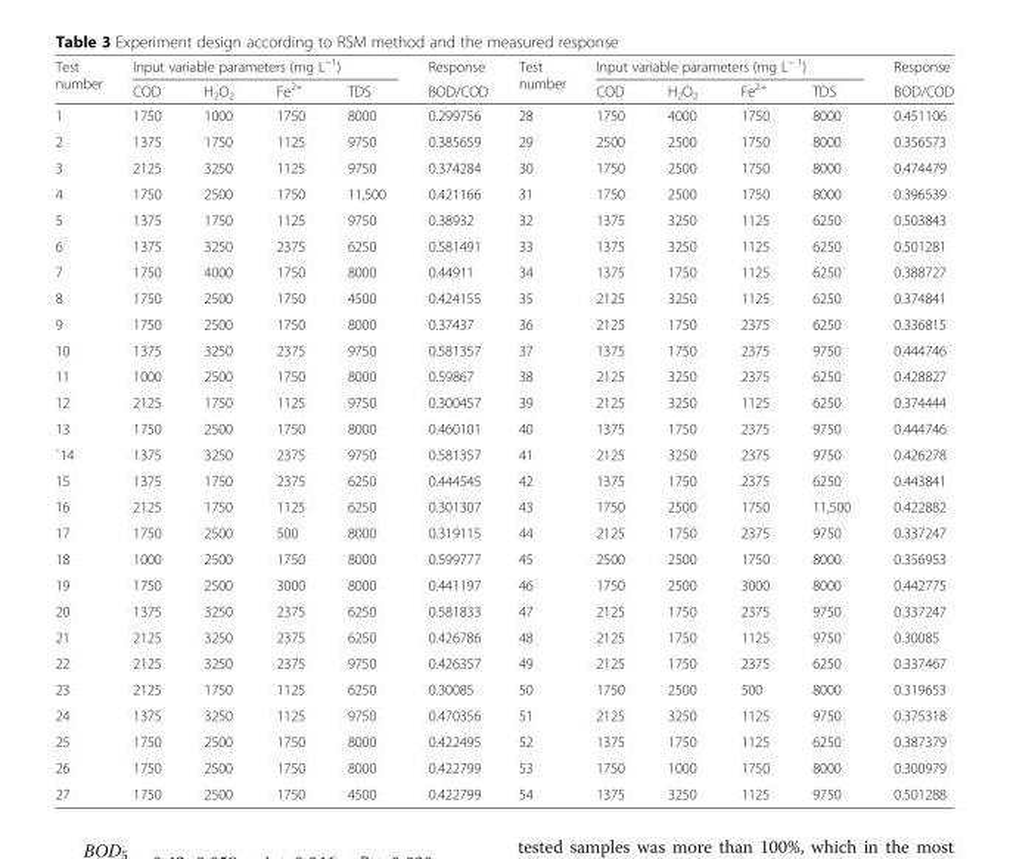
<table><thead><tr><td rowspan="2">Test number</td><td colspan="4">Input variable parameters (mg L<sup>−1</sup>)</td><td rowspan="2">Response BOD/COD</td><td rowspan="2">Test number</td><td colspan="4">Input variable parameters (mg L<sup>− 1</sup>)</td><td rowspan="2">Response BOD/COD</td></tr><tr><td>COD</td><td>H<sub>2</sub>O<sub>2</sub></td><td>Fe<sup>2+</sup></td><td>TDS</td><td>COD</td><td>H<sub>2</sub>O<sub>2</sub></td><td>Fe<sup>2+</sup></td><td>TDS</td></tr></thead><tbody><tr><td>1</td><td>1750</td><td>1000</td><td>1750</td><td>8000</td><td>0.299756</td><td>28</td><td>1750</td><td>4000</td><td>1750</td><td>8000</td><td>0.451106</td></tr><tr><td>2</td><td>1375</td><td>1750</td><td>1125</td><td>9750</td><td>0.385659</td><td>29</td><td>2500</td><td>2500</td><td>1750</td><td>8000</td><td>0.356573</td></tr><tr><td>3</td><td>2125</td><td>3250</td><td>1125</td><td>9750</td><td>0.374284</td><td>30</td><td>1750</td><td>2500</td><td>1750</td><td>8000</td><td>0.474479</td></tr><tr><td>4</td><td>1750</td><td>2500</td><td>1750</td><td>11,500</td><td>0.421166</td><td>31</td><td>1750</td><td>2500</td><td>1750</td><td>8000</td><td>0.396539</td></tr><tr><td>5</td><td>1375</td><td>1750</td><td>1125</td><td>9750</td><td>0.38932</td><td>32</td><td>1375</td><td>3250</td><td>1125</td><td>6250</td><td>0.503843</td></tr><tr><td>6</td><td>1375</td><td>3250</td><td>2375</td><td>6250</td><td>0.581491</td><td>33</td><td>1375</td><td>3250</td><td>1125</td><td>6250</td><td>0.501281</td></tr><tr><td>7</td><td>1750</td><td>4000</td><td>1750</td><td>8000</td><td>0.44911</td><td>34</td><td>1375</td><td>1750</td><td>1125</td><td>6250</td><td>0.388727</td></tr><tr><td>8</td><td>1750</td><td>2500</td><td>1750</td><td>4500</td><td>0.424155</td><td>35</td><td>2125</td><td>3250</td><td>1125</td><td>6250</td><td>0.374841</td></tr><tr><td>9</td><td>1750</td><td>2500</td><td>1750</td><td>8000</td><td>0.37437</td><td>36</td><td>2125</td><td>1750</td><td>2375</td><td>6250</td><td>0.336815</td></tr><tr><td>10</td><td>1375</td><td>3250</td><td>2375</td><td>9750</td><td>0.581357</td><td>37</td><td>1375</td><td>1750</td><td>2375</td><td>9750</td><td>0.444746</td></tr><tr><td>11</td><td>1000</td><td>2500</td><td>1750</td><td>8000</td><td>0.59867</td><td>38</td><td>2125</td><td>3250</td><td>2375</td><td>6250</td><td>0.428827</td></tr><tr><td>12</td><td>2125</td><td>1750</td><td>1125</td><td>9750</td><td>0.300457</td><td>39</td><td>2125</td><td>3250</td><td>1125</td><td>6250</td><td>0.374444</td></tr><tr><td>13</td><td>1750</td><td>2500</td><td>1750</td><td>8000</td><td>0.460101</td><td>40</td><td>1375</td><td>1750</td><td>2375</td><td>9750</td><td>0.444746</td></tr><tr><td>`14</td><td>1375</td><td>3250</td><td>2375</td><td>9750</td><td>0.581357</td><td>41</td><td>2125</td><td>3250</td><td>2375</td><td>9750</td><td>0.426278</td></tr><tr><td>15</td><td>1375</td><td>1750</td><td>2375</td><td>6250</td><td>0.444545</td><td>42</td><td>1375</td><td>1750</td><td>2375</td><td>6250</td><td>0.443841</td></tr><tr><td>16</td><td>2125</td><td>1750</td><td>1125</td><td>6250</td><td>0.301307</td><td>43</td><td>1750</td><td>2500</td><td>1750</td><td>11,500</td><td>0.422882</td></tr><tr><td>17</td><td>1750</td><td>2500</td><td>500</td><td>8000</td><td>0.319115</td><td>44</td><td>2125</td><td>1750</td><td>2375</td><td>9750</td><td>0.337247</td></tr><tr><td>18</td><td>1000</td><td>2500</td><td>1750</td><td>8000</td><td>0.599777</td><td>45</td><td>2500</td><td>2500</td><td>1750</td><td>8000</td><td>0.356953</td></tr><tr><td>19</td><td>1750</td><td>2500</td><td>3000</td><td>8000</td><td>0.441197</td><td>46</td><td>1750</td><td>2500</td><td>3000</td><td>8000</td><td>0.442775</td></tr><tr><td>20</td><td>1375</td><td>3250</td><td>2375</td><td>6250</td><td>0.581833</td><td>47</td><td>2125</td><td>1750</td><td>2375</td><td>9750</td><td>0.337247</td></tr><tr><td>21</td><td>2125</td><td>3250</td><td>2375</td><td>6250</td><td>0.426786</td><td>48</td><td>2125</td><td>1750</td><td>1125</td><td>9750</td><td>0.30085</td></tr><tr><td>22</td><td>2125</td><td>3250</td><td>2375</td><td>9750</td><td>0.426357</td><td>49</td><td>2125</td><td>1750</td><td>2375</td><td>6250</td><td>0.337467</td></tr><tr><td>23</td><td>2125</td><td>1750</td><td>1125</td><td>6250</td><td>0.30085</td><td>50</td><td>1750</td><td>2500</td><td>500</td><td>8000</td><td>0.319653</td></tr><tr><td>24</td><td>1375</td><td>3250</td><td>1125</td><td>9750</td><td>0.470356</td><td>51</td><td>2125</td><td>3250</td><td>1125</td><td>9750</td><td>0.375318</td></tr><tr><td>25</td><td>1750</td><td>2500</td><td>1750</td><td>8000</td><td>0.422495</td><td>52</td><td>1375</td><td>1750</td><td>1125</td><td>6250</td><td>0.387379</td></tr><tr><td>26</td><td>1750</td><td>2500</td><td>1750</td><td>8000</td><td>0.422799</td><td>53</td><td>1750</td><td>1000</td><td>1750</td><td>8000</td><td>0.300979</td></tr><tr><td>27</td><td>1750</td><td>2500</td><td>1750</td><td>4500</td><td>0.422799</td><td>54</td><td>1375</td><td>3250</td><td>1125</td><td>9750</td><td>0.501288</td></tr></tbody></table>